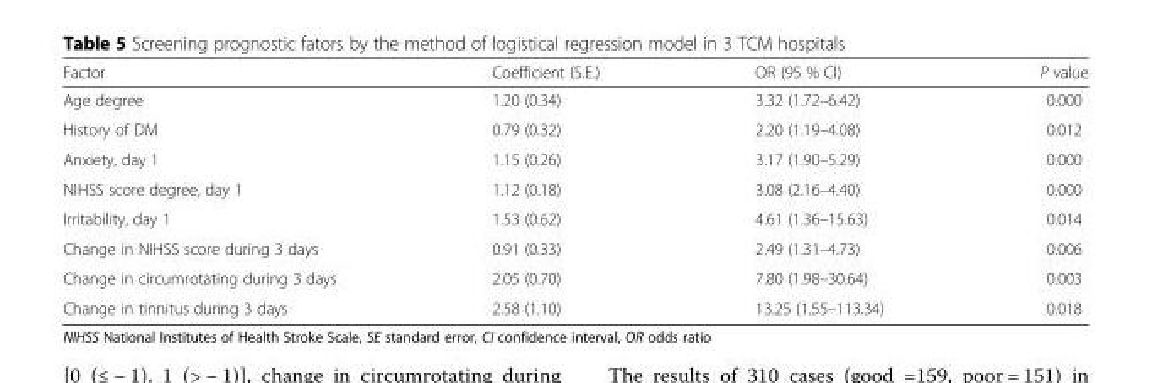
<table><thead><tr><td>Factor</td><td>Coefficient (S.E.)</td><td>OR (95 % CI)</td><td>P value</td></tr></thead><tbody><tr><td>Age degree</td><td>1.20 (0.34)</td><td>3.32 (1.72–6.42)</td><td>0.000</td></tr><tr><td>History of DM</td><td>0.79 (0.32)</td><td>2.20 (1.19–4.08)</td><td>0.012</td></tr><tr><td>Anxiety, day 1</td><td>1.15 (0.26)</td><td>3.17 (1.90–5.29)</td><td>0.000</td></tr><tr><td>NIHSS score degree, day 1</td><td>1.12 (0.18)</td><td>3.08 (2.16–4.40)</td><td>0.000</td></tr><tr><td>Irritability, day 1</td><td>1.53 (0.62)</td><td>4.61 (1.36–15.63)</td><td>0.014</td></tr><tr><td>Change in NIHSS score during 3 days</td><td>0.91 (0.33)</td><td>2.49 (1.31–4.73)</td><td>0.006</td></tr><tr><td>Change in circumrotating during 3 days</td><td>2.05 (0.70)</td><td>7.80 (1.98–30.64)</td><td>0.003</td></tr><tr><td>Change in tinnitus during 3 days</td><td>2.58 (1.10)</td><td>13.25 (1.55–113.34)</td><td>0.018</td></tr></tbody></table>